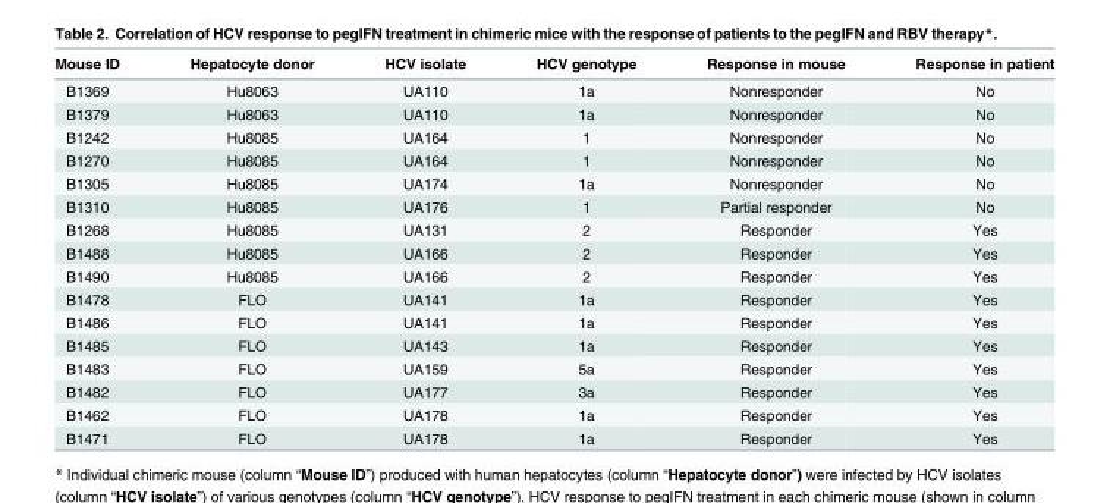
<table><thead><tr><td>Mouse ID</td><td>Hepatocyte donor</td><td>HCV isolate</td><td>HCV genotype</td><td>Response in mouse</td><td>Response in patient</td></tr></thead><tbody><tr><td>B1369</td><td>Hu8063</td><td>UA110</td><td>1a</td><td>Nonresponder</td><td>No</td></tr><tr><td>B1379</td><td>Hu8063</td><td>UA110</td><td>1a</td><td>Nonresponder</td><td>No</td></tr><tr><td>B1242</td><td>Hu8085</td><td>UA164</td><td>1</td><td>Nonresponder</td><td>No</td></tr><tr><td>B1270</td><td>Hu8085</td><td>UA164</td><td>1</td><td>Nonresponder</td><td>No</td></tr><tr><td>B1305</td><td>Hu8085</td><td>UA174</td><td>1a</td><td>Nonresponder</td><td>No</td></tr><tr><td>B1310</td><td>Hu8085</td><td>UA176</td><td>1</td><td>Partial responder</td><td>No</td></tr><tr><td>B1268</td><td>Hu8085</td><td>UA131</td><td>2</td><td>Responder</td><td>Yes</td></tr><tr><td>B1488</td><td>Hu8085</td><td>UA166</td><td>2</td><td>Responder</td><td>Yes</td></tr><tr><td>B1490</td><td>Hu8085</td><td>UA166</td><td>2</td><td>Responder</td><td>Yes</td></tr><tr><td>B1478</td><td>FLO</td><td>UA141</td><td>1a</td><td>Responder</td><td>Yes</td></tr><tr><td>B1486</td><td>FLO</td><td>UA141</td><td>1a</td><td>Responder</td><td>Yes</td></tr><tr><td>B1485</td><td>FLO</td><td>UA143</td><td>1a</td><td>Responder</td><td>Yes</td></tr><tr><td>B1483</td><td>FLO</td><td>UA159</td><td>5a</td><td>Responder</td><td>Yes</td></tr><tr><td>B1482</td><td>FLO</td><td>UA177</td><td>3a</td><td>Responder</td><td>Yes</td></tr><tr><td>B1462</td><td>FLO</td><td>UA178</td><td>1a</td><td>Responder</td><td>Yes</td></tr><tr><td>B1471</td><td>FLO</td><td>UA178</td><td>1a</td><td>Responder</td><td>Yes</td></tr></tbody></table>